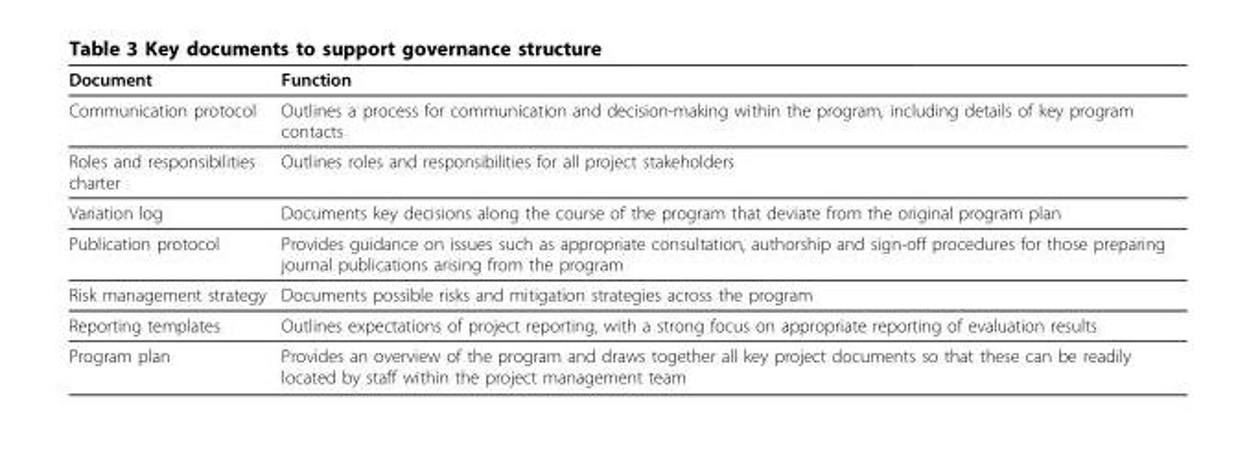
<table><thead><tr><td>Document</td><td>Function</td></tr></thead><tbody><tr><td>Communication protocol</td><td>Outlines a process for communication and decision-making within the program, including details of key program contacts</td></tr><tr><td>Roles and responsibilities charter</td><td>Outlines roles and responsibilities for all project stakeholders</td></tr><tr><td>Variation log</td><td>Documents key decisions along the course of the program that deviate from the original program plan</td></tr><tr><td>Publication protocol</td><td>Provides guidance on issues such as appropriate consultation, authorship and sign-off procedures for those preparing journal publications arising from the program</td></tr><tr><td>Risk management strategy</td><td>Documents possible risks and mitigation strategies across the program</td></tr><tr><td>Reporting templates</td><td>Outlines expectations of project reporting, with a strong focus on appropriate reporting of evaluation results</td></tr><tr><td>Program plan</td><td>Provides an overview of the program and draws together all key project documents so that these can be readily located by staff within the project management team</td></tr></tbody></table>